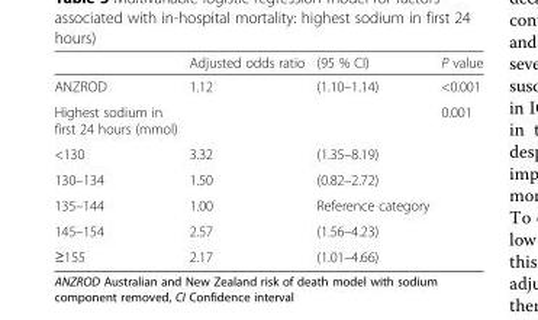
<table><thead><tr><td></td><td>Adjusted odds ratio</td><td>(95 % CI)</td><td>P value</td></tr></thead><tbody><tr><td>ANZROD</td><td>1.12</td><td>(1.10–1.14)</td><td>&lt;0.001</td></tr><tr><td>Highest sodium in first 24 hours (mmol)</td><td></td><td></td><td>0.001</td></tr><tr><td>&lt;130</td><td>3.32</td><td>(1.35–8.19)</td><td></td></tr><tr><td>130–134</td><td>1.50</td><td>(0.82–2.72)</td><td></td></tr><tr><td>135–144</td><td>1.00</td><td>Reference category</td><td></td></tr><tr><td>145–154</td><td>2.57</td><td>(1.56–4.23)</td><td></td></tr><tr><td>≥155</td><td>2.17</td><td>(1.01–4.66)</td><td></td></tr></tbody></table>